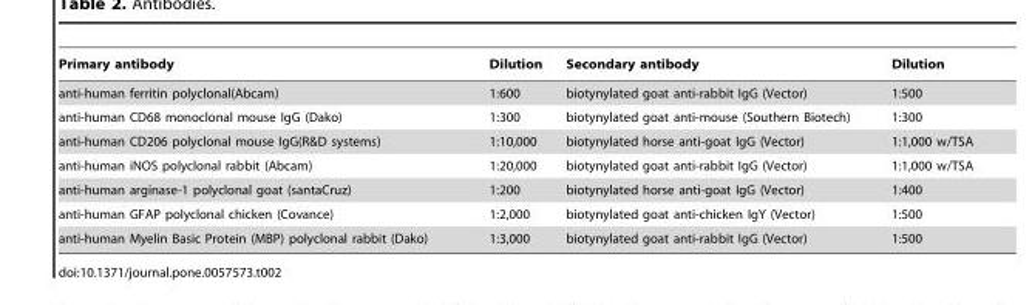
<table><thead><tr><td>Primary antibody</td><td>Dilution</td><td>Secondary antibody</td><td>Dilution</td></tr></thead><tbody><tr><td>anti-human ferritin polyclonal(Abcam)</td><td>1:600</td><td>biotynylated goat anti-rabbit IgG (Vector)</td><td>1:500</td></tr><tr><td>anti-human CD68 monoclonal mouse IgG (Dako)</td><td>1:300</td><td>biotynylated goat anti-mouse (Southern Biotech)</td><td>1:300</td></tr><tr><td>anti-human CD206 polyclonal mouse IgG(R&amp;D systems)</td><td>1:10,000</td><td>biotynylated horse anti-goat IgG (Vector)</td><td>1:1,000 w/TSA</td></tr><tr><td>anti-human iNOS polyclonal rabbit (Abcam)</td><td>1:20,000</td><td>biotynylated goat anti-rabbit IgG (Vector)</td><td>1:1,000 w/TSA</td></tr><tr><td>anti-human arginase-1 polyclonal goat (santaCruz)</td><td>1:200</td><td>biotynylated horse anti-goat IgG (Vector)</td><td>1:400</td></tr><tr><td>anti-human GFAP polyclonal chicken (Covance)</td><td>1:2,000</td><td>biotynylated goat anti-chicken IgY (Vector)</td><td>1:500</td></tr><tr><td>anti-human Myelin Basic Protein (MBP) polyclonal rabbit (Dako)</td><td>1:3,000</td><td>biotynylated goat anti-rabbit IgG (Vector)</td><td>1:500</td></tr></tbody></table>